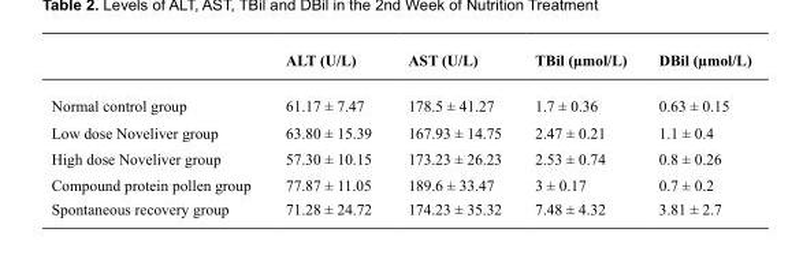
<table><thead><tr><td></td><td>ALT (U/L)</td><td>AST (U/L)</td><td>TBil (µmol/L)</td><td>DBil (µmol/L)</td></tr></thead><tbody><tr><td>Normal control group</td><td>61.17 ± 7.47</td><td>178.5 ± 41.27</td><td>1.7 ± 0.36</td><td>0.63 ± 0.15</td></tr><tr><td>Low dose Noveliver group</td><td>63.80 ± 15.39</td><td>167.93 ± 14.75</td><td>2.47 ± 0.21</td><td>1.1 ± 0.4</td></tr><tr><td>High dose Noveliver group</td><td>57.30 ± 10.15</td><td>173.23 ± 26.23</td><td>2.53 ± 0.74</td><td>0.8 ± 0.26</td></tr><tr><td>Compound protein pollen group</td><td>77.87 ± 11.05</td><td>189.6 ± 33.47</td><td>3 ± 0.17</td><td>0.7 ± 0.2</td></tr><tr><td>Spontaneous recovery group</td><td>71.28 ± 24.72</td><td>174.23 ± 35.32</td><td>7.48 ± 4.32</td><td>3.81 ± 2.7</td></tr></tbody></table>